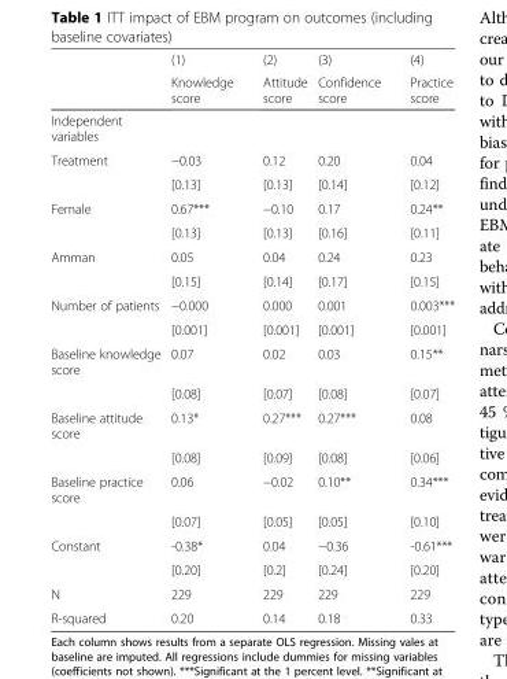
<table><thead><tr><td rowspan="2"></td><td rowspan="2">(1) Knowledge score</td><td rowspan="2">(2) Attitude score</td><td rowspan="2">(3) Confidence score</td><td rowspan="2">(4) Practice score</td></tr><tr></tr></thead><tbody><tr><td colspan="5">Independent variables</td></tr><tr><td rowspan="2">Treatment</td><td>−0.03</td><td>0.12</td><td>0.20</td><td>0.04</td></tr><tr><td>[0.13]</td><td>[0.13]</td><td>[0.14]</td><td>[0.12]</td></tr><tr><td rowspan="2">Female</td><td>0.67***</td><td>−0.10</td><td>0.17</td><td>0.24**</td></tr><tr><td>[0.13]</td><td>[0.13]</td><td>[0.16]</td><td>[0.11]</td></tr><tr><td rowspan="2">Amman</td><td>0.05</td><td>0.04</td><td>0.24</td><td>0.23</td></tr><tr><td>[0.15]</td><td>[0.14]</td><td>[0.17]</td><td>[0.15]</td></tr><tr><td rowspan="2">Number of patients</td><td>−0.000</td><td>0.000</td><td>0.001</td><td>0.003***</td></tr><tr><td>[0.001]</td><td>[0.001]</td><td>[0.001]</td><td>[0.001]</td></tr><tr><td rowspan="2">Baseline knowledge score</td><td>0.07</td><td>0.02</td><td>0.03</td><td>0.15**</td></tr><tr><td>[0.08]</td><td>[0.07]</td><td>[0.08]</td><td>[0.07]</td></tr><tr><td rowspan="2">Baseline attitude score</td><td>0.13*</td><td>0.27***</td><td>0.27***</td><td>0.08</td></tr><tr><td>[0.08]</td><td>[0.09]</td><td>[0.08]</td><td>[0.06]</td></tr><tr><td rowspan="2">Baseline practice score</td><td>0.06</td><td>−0.02</td><td>0.10**</td><td>0.34***</td></tr><tr><td>[0.07]</td><td>[0.05]</td><td>[0.05]</td><td>[0.10]</td></tr><tr><td rowspan="2">Constant</td><td>-0.38*</td><td>0.04</td><td>−0.36</td><td>-0.61***</td></tr><tr><td>[0.20]</td><td>[0.2]</td><td>[0.24]</td><td>[0.20]</td></tr><tr><td>N</td><td>229</td><td>229</td><td>229</td><td>229</td></tr><tr><td>R-squared</td><td>0.20</td><td>0.14</td><td>0.18</td><td>0.33</td></tr></tbody></table>